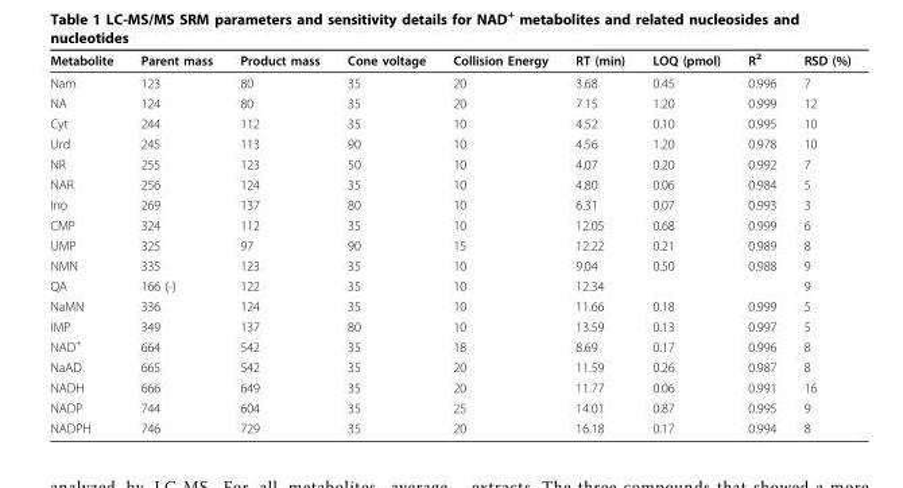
<table><thead><tr><td>Metabolite</td><td>Parent mass</td><td>Product mass</td><td>Cone voltage</td><td>Collision Energy</td><td>RT (min)</td><td>LOQ (pmol)</td><td>R<sup>2</sup></td><td>RSD (%)</td></tr></thead><tbody><tr><td>Nam</td><td>123</td><td>80</td><td>35</td><td>20</td><td>3.68</td><td>0.45</td><td>0.996</td><td>7</td></tr><tr><td>NA</td><td>124</td><td>80</td><td>35</td><td>20</td><td>7.15</td><td>1.20</td><td>0.999</td><td>12</td></tr><tr><td>Cyt</td><td>244</td><td>112</td><td>35</td><td>10</td><td>4.52</td><td>0.10</td><td>0.995</td><td>10</td></tr><tr><td>Urd</td><td>245</td><td>113</td><td>90</td><td>10</td><td>4.56</td><td>1.20</td><td>0.978</td><td>10</td></tr><tr><td>NR</td><td>255</td><td>123</td><td>50</td><td>10</td><td>4.07</td><td>0.20</td><td>0.992</td><td>7</td></tr><tr><td>NAR</td><td>256</td><td>124</td><td>35</td><td>10</td><td>4.80</td><td>0.06</td><td>0.984</td><td>5</td></tr><tr><td>Ino</td><td>269</td><td>137</td><td>80</td><td>10</td><td>6.31</td><td>0.07</td><td>0.993</td><td>3</td></tr><tr><td>CMP</td><td>324</td><td>112</td><td>35</td><td>10</td><td>12.05</td><td>0.68</td><td>0.999</td><td>6</td></tr><tr><td>UMP</td><td>325</td><td>97</td><td>90</td><td>15</td><td>12.22</td><td>0.21</td><td>0.989</td><td>8</td></tr><tr><td>NMN</td><td>335</td><td>123</td><td>35</td><td>10</td><td>9.04</td><td>0.50</td><td>0.988</td><td>9</td></tr><tr><td>QA</td><td>166 (-)</td><td>122</td><td>35</td><td>10</td><td>12.34</td><td></td><td></td><td>9</td></tr><tr><td>NaMN</td><td>336</td><td>124</td><td>35</td><td>10</td><td>11.66</td><td>0.18</td><td>0.999</td><td>5</td></tr><tr><td>IMP</td><td>349</td><td>137</td><td>80</td><td>10</td><td>13.59</td><td>0.13</td><td>0.997</td><td>5</td></tr><tr><td>NAD<sup>+</sup></td><td>664</td><td>542</td><td>35</td><td>18</td><td>8.69</td><td>0.17</td><td>0.996</td><td>8</td></tr><tr><td>NaAD</td><td>665</td><td>542</td><td>35</td><td>20</td><td>11.59</td><td>0.26</td><td>0.987</td><td>8</td></tr><tr><td>NADH</td><td>666</td><td>649</td><td>35</td><td>20</td><td>11.77</td><td>0.06</td><td>0.991</td><td>16</td></tr><tr><td>NADP</td><td>744</td><td>604</td><td>35</td><td>25</td><td>14.01</td><td>0.87</td><td>0.995</td><td>9</td></tr><tr><td>NADPH</td><td>746</td><td>729</td><td>35</td><td>20</td><td>16.18</td><td>0.17</td><td>0.994</td><td>8</td></tr></tbody></table>